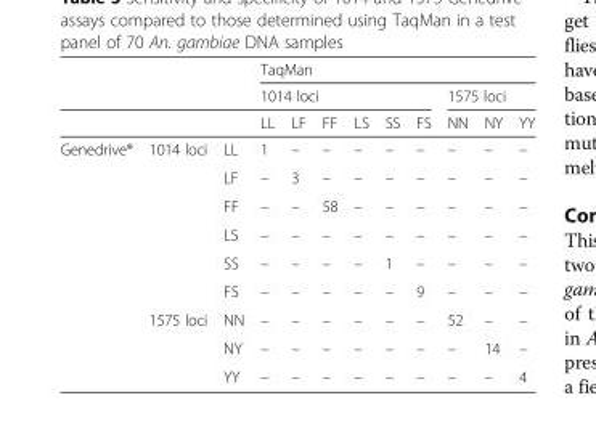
<table><thead><tr><td rowspan="3"></td><td rowspan="3"></td><td rowspan="3"></td><td colspan="9">TaqMan</td></tr><tr><td colspan="6">1014 loci</td><td colspan="3">1575 loci</td></tr><tr><td>LL</td><td>LF</td><td>FF</td><td>LS</td><td>SS</td><td>FS</td><td>NN</td><td>NY</td><td>YY</td></tr></thead><tbody><tr><td rowspan="9">Genedrive®</td><td rowspan="6">1014 loci</td><td>LL</td><td>1</td><td>–</td><td>–</td><td>–</td><td>–</td><td>–</td><td>–</td><td>–</td><td>–</td></tr><tr><td>LF</td><td>–</td><td>3</td><td>–</td><td>–</td><td>–</td><td>–</td><td>–</td><td>–</td><td>–</td></tr><tr><td>FF</td><td>–</td><td>–</td><td>58</td><td>–</td><td>–</td><td>–</td><td>–</td><td>–</td><td>–</td></tr><tr><td>LS</td><td>–</td><td>–</td><td>–</td><td>–</td><td>–</td><td>–</td><td>–</td><td>–</td><td>–</td></tr><tr><td>SS</td><td>–</td><td>–</td><td>–</td><td>–</td><td>1</td><td>–</td><td>–</td><td>–</td><td>–</td></tr><tr><td>FS</td><td>–</td><td>–</td><td>–</td><td>–</td><td>–</td><td>9</td><td>–</td><td>–</td><td>–</td></tr><tr><td rowspan="3">1575 loci</td><td>NN</td><td>–</td><td>–</td><td>–</td><td>–</td><td>–</td><td>–</td><td>52</td><td>–</td><td>–</td></tr><tr><td>NY</td><td>–</td><td>–</td><td>–</td><td>–</td><td>–</td><td>–</td><td>–</td><td>14</td><td>–</td></tr><tr><td>YY</td><td>–</td><td>–</td><td>–</td><td>–</td><td>–</td><td>–</td><td>–</td><td>–</td><td>4</td></tr></tbody></table>